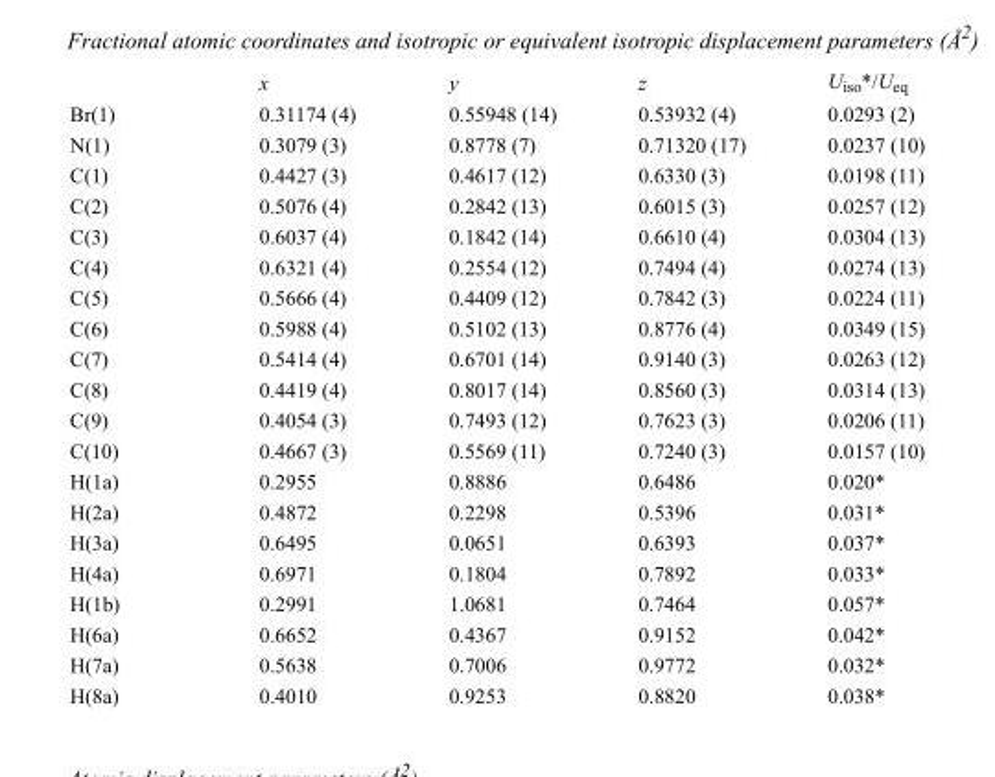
<table><thead><tr><td></td><td>x</td><td>y</td><td>z</td><td>U<sub>iso</sub>*/U<sub>eq</sub></td></tr></thead><tbody><tr><td>Br(1)</td><td>0.31174 (4)</td><td>0.55948 (14)</td><td>0.53932 (4)</td><td>0.0293 (2)</td></tr><tr><td>N(1)</td><td>0.3079 (3)</td><td>0.8778 (7)</td><td>0.71320 (17)</td><td>0.0237 (10)</td></tr><tr><td>C(1)</td><td>0.4427 (3)</td><td>0.4617 (12)</td><td>0.6330 (3)</td><td>0.0198 (11)</td></tr><tr><td>C(2)</td><td>0.5076 (4)</td><td>0.2842 (13)</td><td>0.6015 (3)</td><td>0.0257 (12)</td></tr><tr><td>C(3)</td><td>0.6037 (4)</td><td>0.1842 (14)</td><td>0.6610 (4)</td><td>0.0304 (13)</td></tr><tr><td>C(4)</td><td>0.6321 (4)</td><td>0.2554 (12)</td><td>0.7494 (4)</td><td>0.0274 (13)</td></tr><tr><td>C(5)</td><td>0.5666 (4)</td><td>0.4409 (12)</td><td>0.7842 (3)</td><td>0.0224 (11)</td></tr><tr><td>C(6)</td><td>0.5988 (4)</td><td>0.5102 (13)</td><td>0.8776 (4)</td><td>0.0349 (15)</td></tr><tr><td>C(7)</td><td>0.5414 (4)</td><td>0.6701 (14)</td><td>0.9140 (3)</td><td>0.0263 (12)</td></tr><tr><td>C(8)</td><td>0.4419 (4)</td><td>0.8017 (14)</td><td>0.8560 (3)</td><td>0.0314 (13)</td></tr><tr><td>C(9)</td><td>0.4054 (3)</td><td>0.7493 (12)</td><td>0.7623 (3)</td><td>0.0206 (11)</td></tr><tr><td>C(10)</td><td>0.4667 (3)</td><td>0.5569 (11)</td><td>0.7240 (3)</td><td>0.0157 (10)</td></tr><tr><td>H(1a)</td><td>0.2955</td><td>0.8886</td><td>0.6486</td><td>0.020*</td></tr><tr><td>H(2a)</td><td>0.4872</td><td>0.2298</td><td>0.5396</td><td>0.031*</td></tr><tr><td>H(3a)</td><td>0.6495</td><td>0.0651</td><td>0.6393</td><td>0.037*</td></tr><tr><td>H(4a)</td><td>0.6971</td><td>0.1804</td><td>0.7892</td><td>0.033*</td></tr><tr><td>H(1b)</td><td>0.2991</td><td>1.0681</td><td>0.7464</td><td>0.057*</td></tr><tr><td>H(6a)</td><td>0.6652</td><td>0.4367</td><td>0.9152</td><td>0.042*</td></tr><tr><td>H(7a)</td><td>0.5638</td><td>0.7006</td><td>0.9772</td><td>0.032*</td></tr><tr><td>H(8a)</td><td>0.4010</td><td>0.9253</td><td>0.8820</td><td>0.038*</td></tr></tbody></table>